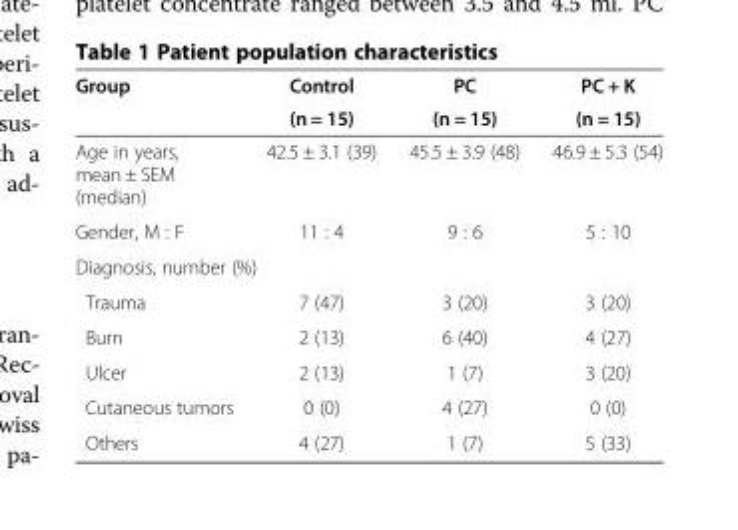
<table><thead><tr><td rowspan="2">Group</td><td rowspan="2">Control (n = 15)</td><td rowspan="2">PC (n = 15)</td><td rowspan="2">PC + K (n = 15)</td></tr><tr></tr></thead><tbody><tr><td>Age in years, mean ± SEM (median)</td><td>42.5 ± 3.1 (39)</td><td>45.5 ± 3.9 (48)</td><td>46.9 ± 5.3 (54)</td></tr><tr><td>Gender, M : F</td><td>11 : 4</td><td>9 : 6</td><td>5 : 10</td></tr><tr><td colspan="4">Diagnosis, number (%)</td></tr><tr><td>Trauma</td><td>7 (47)</td><td>3 (20)</td><td>3 (20)</td></tr><tr><td>Burn</td><td>2 (13)</td><td>6 (40)</td><td>4 (27)</td></tr><tr><td>Ulcer</td><td>2 (13)</td><td>1 (7)</td><td>3 (20)</td></tr><tr><td>Cutaneous tumors</td><td>0 (0)</td><td>4 (27)</td><td>0 (0)</td></tr><tr><td>Others</td><td>4 (27)</td><td>1 (7)</td><td>5 (33)</td></tr></tbody></table>